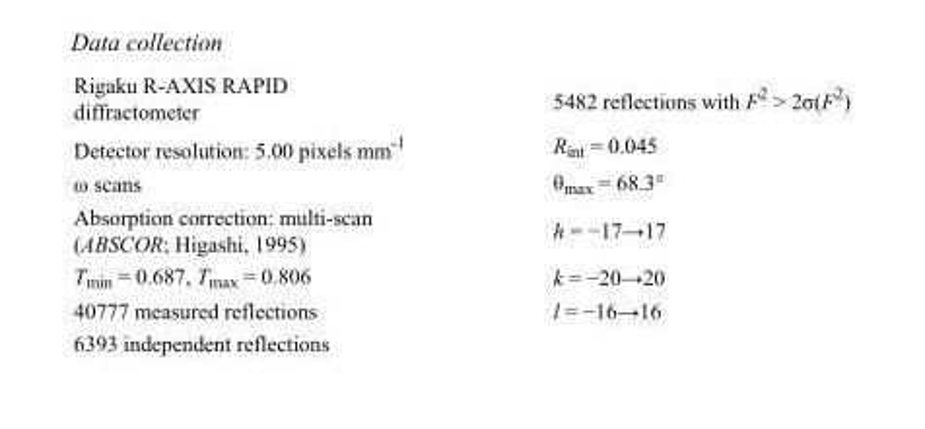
<table><tbody><tr><td>Rigaku R-AXIS RAPID diffractometer</td><td>5482 reflections with F<sup>2</sup> &gt; 2σ(F<sup>2</sup>)</td></tr><tr><td>Detector resolution: 5.00 pixels mm<sup>-1</sup></td><td>R<sub>int</sub> = 0.045</td></tr><tr><td>ω scans</td><td>θ<sub>max</sub> = 68.3°</td></tr><tr><td>Absorption correction: multi-scan (ABSCOR; Higashi, 1995)</td><td>h = −17→17</td></tr><tr><td>T<sub>min</sub> = 0.687, T<sub>max</sub> = 0.806</td><td>k = −20→20</td></tr><tr><td>40777 measured reflections</td><td>l = −16→16</td></tr><tr><td>6393 independent reflections</td><td></td></tr></tbody></table>